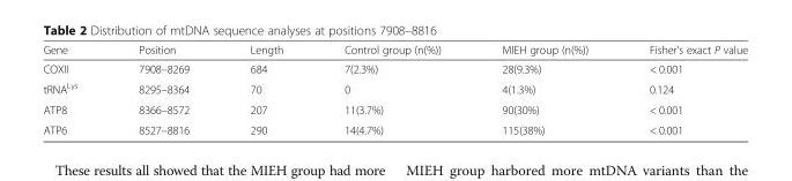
<table><thead><tr><td>Gene</td><td>Position</td><td>Length</td><td>Control group (n(%))</td><td>MIEH group (n(%))</td><td>Fisher’s exact P value</td></tr></thead><tbody><tr><td>COXII</td><td>7908–8269</td><td>684</td><td>7(2.3%)</td><td>28(9.3%)</td><td>&lt; 0.001</td></tr><tr><td>tRNA<sup>Lys</sup></td><td>8295–8364</td><td>70</td><td>0</td><td>4(1.3%)</td><td>0.124</td></tr><tr><td>ATP8</td><td>8366–8572</td><td>207</td><td>11(3.7%)</td><td>90(30%)</td><td>&lt; 0.001</td></tr><tr><td>ATP6</td><td>8527–8816</td><td>290</td><td>14(4.7%)</td><td>115(38%)</td><td>&lt; 0.001</td></tr></tbody></table>